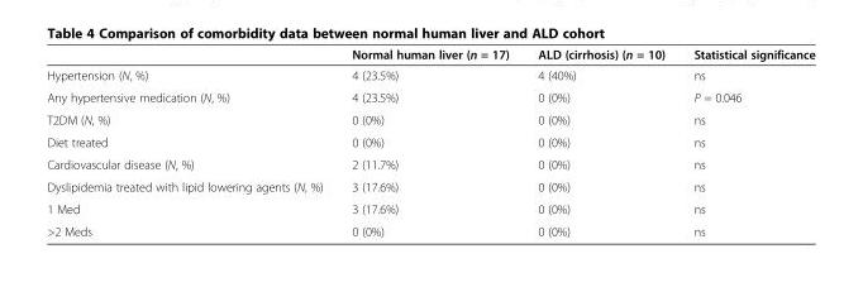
<table><thead><tr><td></td><td>Normal human liver (n = 17)</td><td>ALD (cirrhosis) (n = 10)</td><td>Statistical significance</td></tr></thead><tbody><tr><td>Hypertension (N, %)</td><td>4 (23.5%)</td><td>4 (40%)</td><td>ns</td></tr><tr><td>Any hypertensive medication (N, %)</td><td>4 (23.5%)</td><td>0 (0%)</td><td>P = 0.046</td></tr><tr><td>T2DM (N, %)</td><td>0 (0%)</td><td>0 (0%)</td><td>ns</td></tr><tr><td>Diet treated</td><td>0 (0%)</td><td>0 (0%)</td><td>ns</td></tr><tr><td>Cardiovascular disease (N, %)</td><td>2 (11.7%)</td><td>0 (0%)</td><td>ns</td></tr><tr><td>Dyslipidemia treated with lipid lowering agents (N, %)</td><td>3 (17.6%)</td><td>0 (0%)</td><td>ns</td></tr><tr><td>1 Med</td><td>3 (17.6%)</td><td>0 (0%)</td><td>ns</td></tr><tr><td>&gt;2 Meds</td><td>0 (0%)</td><td>0 (0%)</td><td>ns</td></tr></tbody></table>